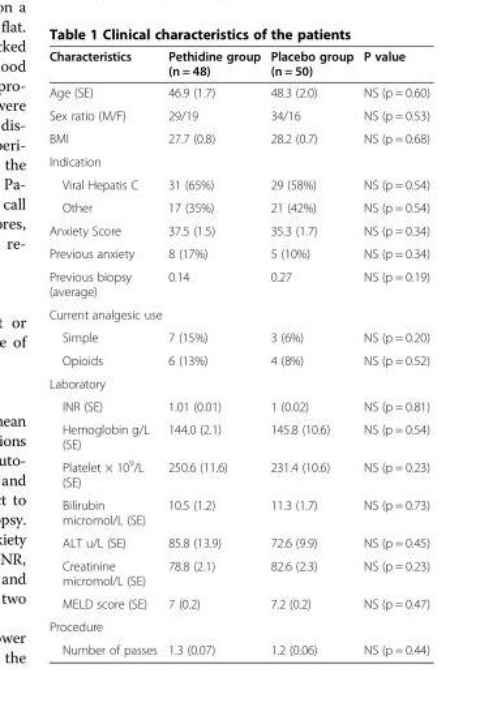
<table><thead><tr><td>Characteristics</td><td>Pethidine group (n = 48)</td><td>Placebo group (n = 50)</td><td>P value</td></tr></thead><tbody><tr><td>Age (SE)</td><td>46.9 (1.7)</td><td>48.3 (2.0)</td><td>NS (p = 0.60)</td></tr><tr><td>Sex ratio (M/F)</td><td>29/19</td><td>34/16</td><td>NS (p = 0.53)</td></tr><tr><td>BMI</td><td>27.7 (0.8)</td><td>28.2 (0.7)</td><td>NS (p = 0.68)</td></tr><tr><td colspan="4">Indication</td></tr><tr><td>Viral Hepatis C</td><td>31 (65%)</td><td>29 (58%)</td><td>NS (p = 0.54)</td></tr><tr><td>Other</td><td>17 (35%)</td><td>21 (42%)</td><td>NS (p = 0.54)</td></tr><tr><td>Anxiety Score</td><td>37.5 (1.5)</td><td>35.3 (1.7)</td><td>NS (p = 0.34)</td></tr><tr><td>Previous anxiety</td><td>8 (17%)</td><td>5 (10%)</td><td>NS (p = 0.34)</td></tr><tr><td>Previous biopsy (average)</td><td>0.14</td><td>0.27</td><td>NS (p = 0.19)</td></tr><tr><td colspan="4">Current analgesic use</td></tr><tr><td>Simple</td><td>7 (15%)</td><td>3 (6%)</td><td>NS (p = 0.20)</td></tr><tr><td>Opioids</td><td>6 (13%)</td><td>4 (8%)</td><td>NS (p = 0.52)</td></tr><tr><td colspan="4">Laboratory</td></tr><tr><td>INR (SE)</td><td>1.01 (0.01)</td><td>1 (0.02)</td><td>NS (p = 0.81)</td></tr><tr><td>Hemoglobin g/L (SE)</td><td>144.0 (2.1)</td><td>145.8 (10.6)</td><td>NS (p = 0.54)</td></tr><tr><td>Platelet × 10<sup>9</sup>/L (SE)</td><td>250.6 (11.6)</td><td>231.4 (10.6)</td><td>NS (p = 0.23)</td></tr><tr><td>Bilirubin micromol/L (SE)</td><td>10.5 (1.2)</td><td>11.3 (1.7)</td><td>NS (p = 0.73)</td></tr><tr><td>ALT u/L (SE)</td><td>85.8 (13.9)</td><td>72.6 (9.9)</td><td>NS (p = 0.45)</td></tr><tr><td>Creatinine micromol/L (SE)</td><td>78.8 (2.1)</td><td>82.6 (2.3)</td><td>NS (p = 0.23)</td></tr><tr><td>MELD score (SE)</td><td>7 (0.2)</td><td>7.2 (0.2)</td><td>NS (p = 0.47)</td></tr><tr><td colspan="4">Procedure</td></tr><tr><td>Number of passes</td><td>1.3 (0.07)</td><td>1.2 (0.06)</td><td>NS (p = 0.44)</td></tr></tbody></table>